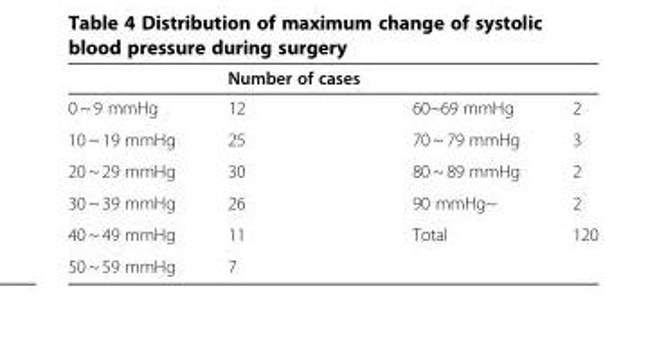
<table><thead><tr><td></td><td>Number of cases</td><td></td><td></td></tr></thead><tbody><tr><td>0 ~ 9 mmHg</td><td>12</td><td>60~69 mmHg</td><td>2</td></tr><tr><td>10 ~ 19 mmHg</td><td>25</td><td>70 ~ 79 mmHg</td><td>3</td></tr><tr><td>20 ~ 29 mmHg</td><td>30</td><td>80 ~ 89 mmHg</td><td>2</td></tr><tr><td>30 ~ 39 mmHg</td><td>26</td><td>90 mmHg~</td><td>2</td></tr><tr><td>40 ~ 49 mmHg</td><td>11</td><td>Total</td><td>120</td></tr><tr><td>50 ~ 59 mmHg</td><td>7</td><td></td><td></td></tr></tbody></table>